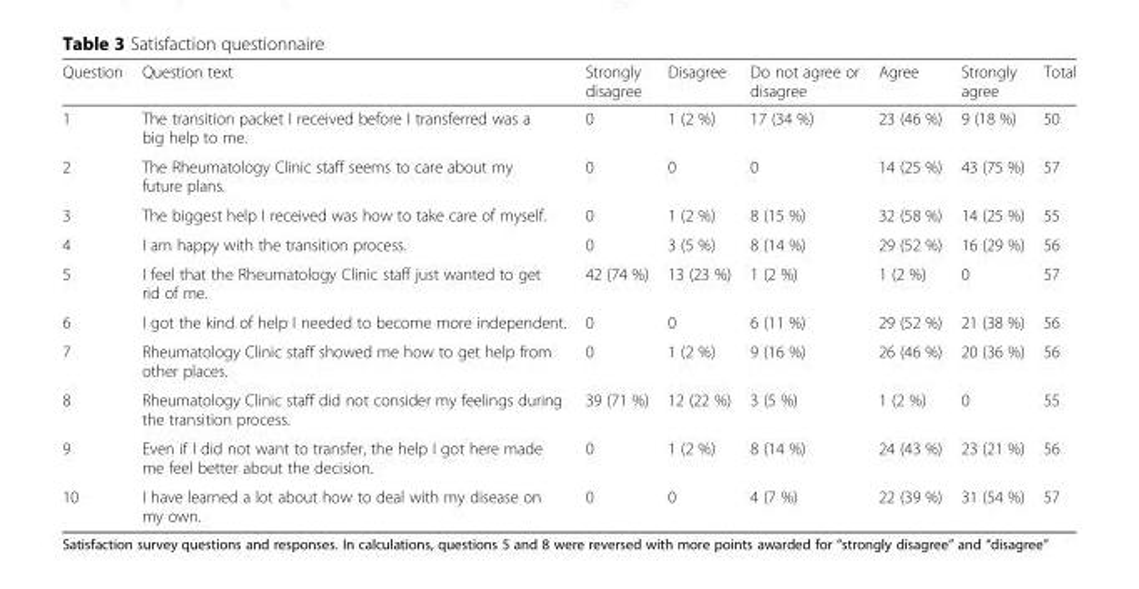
<table><thead><tr><td>Question</td><td>Question text</td><td>Strongly disagree</td><td>Disagree</td><td>Do not agree or disagree</td><td>Agree</td><td>Strongly agree</td><td>Total</td></tr></thead><tbody><tr><td>1</td><td>The transition packet I received before I transferred was a big help to me.</td><td>0</td><td>1 (2 %)</td><td>17 (34 %)</td><td>23 (46 %)</td><td>9 (18 %)</td><td>50</td></tr><tr><td>2</td><td>The Rheumatology Clinic staff seems to care about my future plans.</td><td>0</td><td>0</td><td>0</td><td>14 (25 %)</td><td>43 (75 %)</td><td>57</td></tr><tr><td>3</td><td>The biggest help I received was how to take care of myself.</td><td>0</td><td>1 (2 %)</td><td>8 (15 %)</td><td>32 (58 %)</td><td>14 (25 %)</td><td>55</td></tr><tr><td>4</td><td>I am happy with the transition process.</td><td>0</td><td>3 (5 %)</td><td>8 (14 %)</td><td>29 (52 %)</td><td>16 (29 %)</td><td>56</td></tr><tr><td>5</td><td>I feel that the Rheumatology Clinic staff just wanted to get rid of me.</td><td>42 (74 %)</td><td>13 (23 %)</td><td>1 (2 %)</td><td>1 (2 %)</td><td>0</td><td>57</td></tr><tr><td>6</td><td>I got the kind of help I needed to become more independent.</td><td>0</td><td>0</td><td>6 (11 %)</td><td>29 (52 %)</td><td>21 (38 %)</td><td>56</td></tr><tr><td>7</td><td>Rheumatology Clinic staff showed me how to get help from other places.</td><td>0</td><td>1 (2 %)</td><td>9 (16 %)</td><td>26 (46 %)</td><td>20 (36 %)</td><td>56</td></tr><tr><td>8</td><td>Rheumatology Clinic staff did not consider my feelings during the transition process.</td><td>39 (71 %)</td><td>12 (22 %)</td><td>3 (5 %)</td><td>1 (2 %)</td><td>0</td><td>55</td></tr><tr><td>9</td><td>Even if I did not want to transfer, the help I got here made me feel better about the decision.</td><td>0</td><td>1 (2 %)</td><td>8 (14 %)</td><td>24 (43 %)</td><td>23 (21 %)</td><td>56</td></tr><tr><td>10</td><td>I have learned a lot about how to deal with my disease on my own.</td><td>0</td><td>0</td><td>4 (7 %)</td><td>22 (39 %)</td><td>31 (54 %)</td><td>57</td></tr></tbody></table>